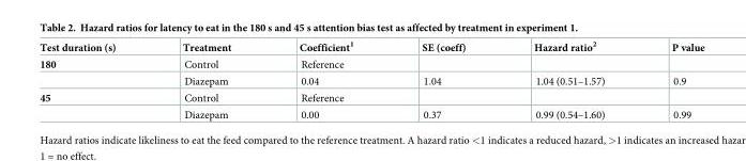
<table><thead><tr><td>Test duration (s)</td><td>Treatment</td><td>Coefficient<sup>1</sup></td><td>SE (coeff)</td><td>Hazard ratio<sup>2</sup></td><td>P value</td></tr></thead><tbody><tr><td rowspan="2">180</td><td>Control</td><td>Reference</td><td></td><td></td><td></td></tr><tr><td>Diazepam</td><td>0.04</td><td>1.04</td><td>1.04 (0.51–1.57)</td><td>0.9</td></tr><tr><td rowspan="2">45</td><td>Control</td><td>Reference</td><td></td><td></td><td></td></tr><tr><td>Diazepam</td><td>0.00</td><td>0.37</td><td>0.99 (0.54–1.60)</td><td>0.99</td></tr></tbody></table>